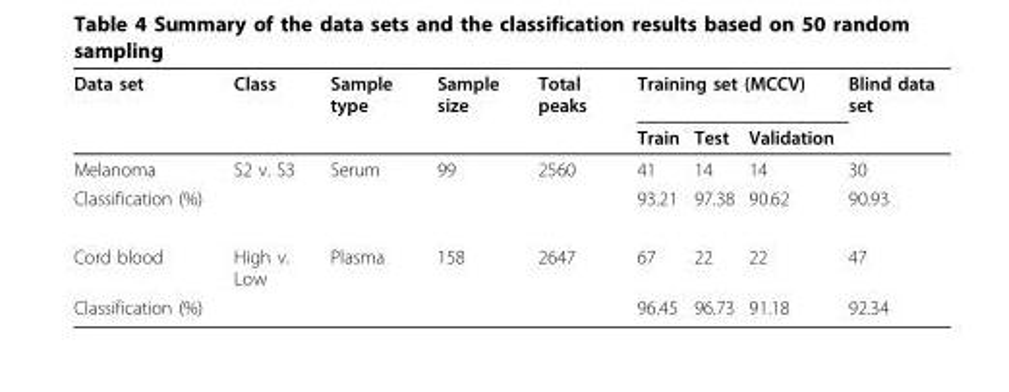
<table><thead><tr><td rowspan="2">Data set</td><td rowspan="2">Class</td><td rowspan="2">Sample type</td><td rowspan="2">Sample size</td><td rowspan="2">Total peaks</td><td colspan="3">Training set (MCCV)</td><td rowspan="2">Blind data set</td></tr><tr><td>Train</td><td>Test</td><td>Validation</td></tr></thead><tbody><tr><td>Melanoma</td><td>S2 v. S3</td><td>Serum</td><td>99</td><td>2560</td><td>41</td><td>14</td><td>14</td><td>30</td></tr><tr><td>Classification (%)</td><td></td><td></td><td></td><td></td><td>93.21</td><td>97.38</td><td>90.62</td><td>90.93</td></tr><tr><td>Cord blood</td><td>High v. Low</td><td>Plasma</td><td>158</td><td>2647</td><td>67</td><td>22</td><td>22</td><td>47</td></tr><tr><td>Classification (%)</td><td></td><td></td><td></td><td></td><td>96.45</td><td>96.73</td><td>91.18</td><td>92.34</td></tr></tbody></table>